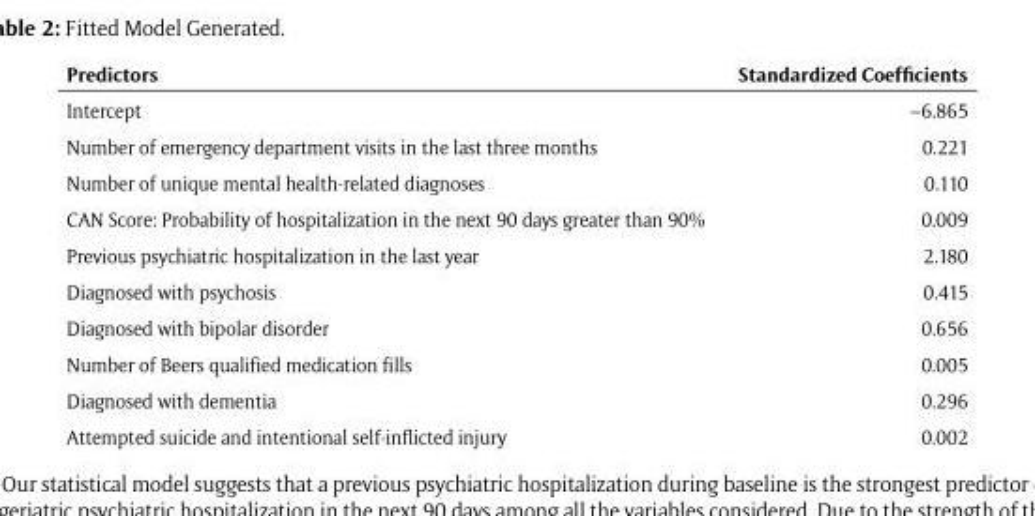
<table><thead><tr><td>Predictors</td><td>Standardized Coefficients</td></tr></thead><tbody><tr><td>Intercept</td><td>–6.865</td></tr><tr><td>Number of emergency department visits in the last three months</td><td>0.221</td></tr><tr><td>Number of unique mental health-related diagnoses</td><td>0.110</td></tr><tr><td>CAN Score: Probability of hospitalization in the next 90 days greater than 90%</td><td>0.009</td></tr><tr><td>Previous psychiatric hospitalization in the last year</td><td>2.180</td></tr><tr><td>Diagnosed with psychosis</td><td>0.415</td></tr><tr><td>Diagnosed with bipolar disorder</td><td>0.656</td></tr><tr><td>Number of Beers qualified medication fills</td><td>0.005</td></tr><tr><td>Diagnosed with dementia</td><td>0.296</td></tr><tr><td>Attempted suicide and intentional self-inflicted injury</td><td>0.002</td></tr></tbody></table>